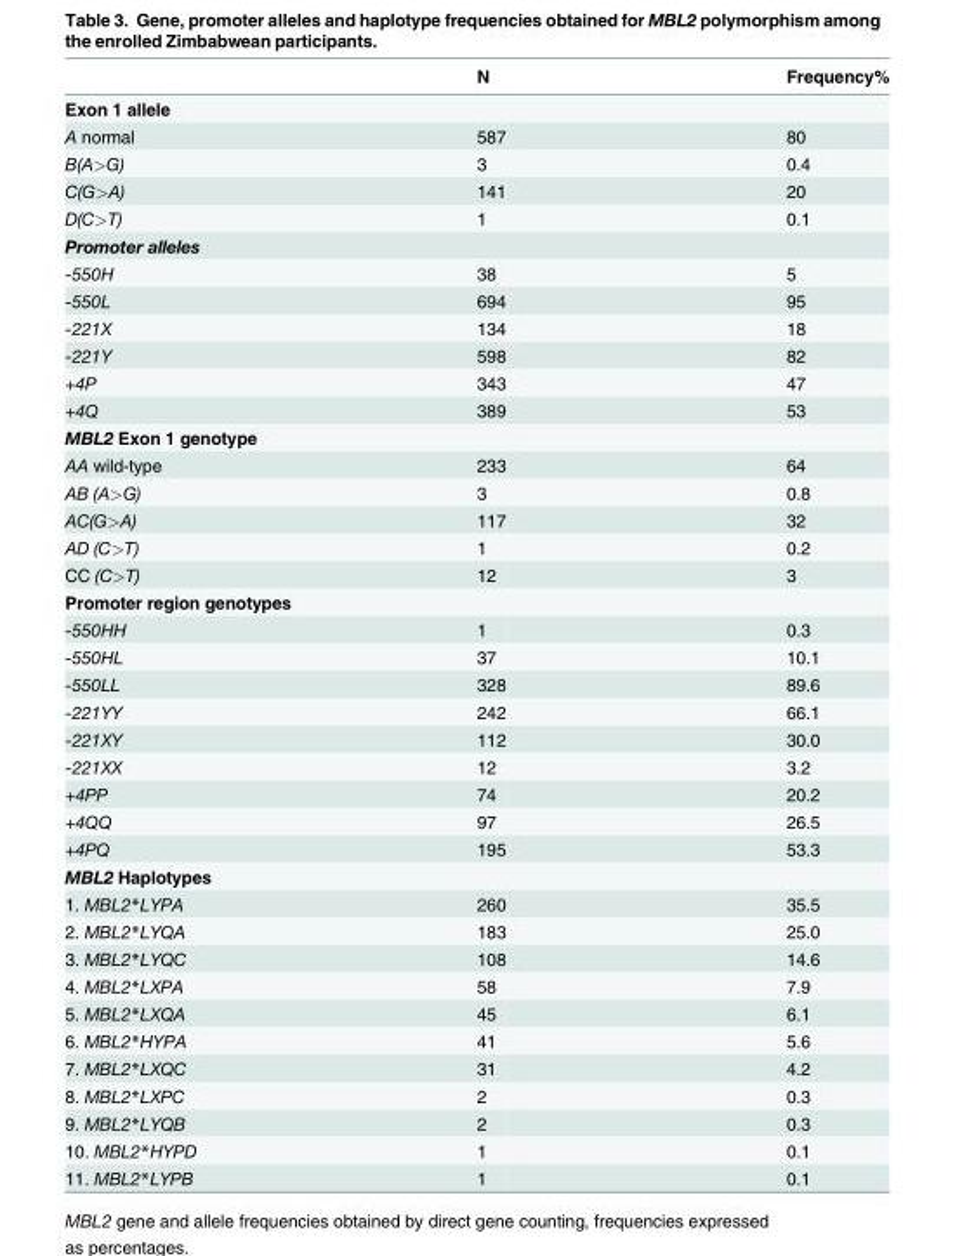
<table><thead><tr><td></td><td>N</td><td>Frequency%</td></tr></thead><tbody><tr><td colspan="3">Exon 1 allele</td></tr><tr><td>A normal</td><td>587</td><td>80</td></tr><tr><td>B(A&gt;G)</td><td>3</td><td>0.4</td></tr><tr><td>C(G&gt;A)</td><td>141</td><td>20</td></tr><tr><td>D(C&gt;T)</td><td>1</td><td>0.1</td></tr><tr><td colspan="3">Promoter alleles</td></tr><tr><td>-550H</td><td>38</td><td>5</td></tr><tr><td>-550L</td><td>694</td><td>95</td></tr><tr><td>-221X</td><td>134</td><td>18</td></tr><tr><td>-221Y</td><td>598</td><td>82</td></tr><tr><td>+4P</td><td>343</td><td>47</td></tr><tr><td>+4Q</td><td>389</td><td>53</td></tr><tr><td colspan="3">MBL2 Exon 1 genotype</td></tr><tr><td>AA wild-type</td><td>233</td><td>64</td></tr><tr><td>AB (A&gt;G)</td><td>3</td><td>0.8</td></tr><tr><td>AC(G&gt;A)</td><td>117</td><td>32</td></tr><tr><td>AD (C&gt;T)</td><td>1</td><td>0.2</td></tr><tr><td>CC (C&gt;T)</td><td>12</td><td>3</td></tr><tr><td colspan="3">Promoter region genotypes</td></tr><tr><td>-550HH</td><td>1</td><td>0.3</td></tr><tr><td>-550HL</td><td>37</td><td>10.1</td></tr><tr><td>-550LL</td><td>328</td><td>89.6</td></tr><tr><td>-221YY</td><td>242</td><td>66.1</td></tr><tr><td>-221XY</td><td>112</td><td>30.0</td></tr><tr><td>-221XX</td><td>12</td><td>3.2</td></tr><tr><td>+4PP</td><td>74</td><td>20.2</td></tr><tr><td>+4QQ</td><td>97</td><td>26.5</td></tr><tr><td>+4PQ</td><td>195</td><td>53.3</td></tr><tr><td colspan="3">MBL2 Haplotypes</td></tr><tr><td>1. MBL2*LYPA</td><td>260</td><td>35.5</td></tr><tr><td>2. MBL2*LYQA</td><td>183</td><td>25.0</td></tr><tr><td>3. MBL2*LYQC</td><td>108</td><td>14.6</td></tr><tr><td>4. MBL2*LXPA</td><td>58</td><td>7.9</td></tr><tr><td>5. MBL2*LXQA</td><td>45</td><td>6.1</td></tr><tr><td>6. MBL2*HYPA</td><td>41</td><td>5.6</td></tr><tr><td>7. MBL2*LXQC</td><td>31</td><td>4.2</td></tr><tr><td>8. MBL2*LXPC</td><td>2</td><td>0.3</td></tr><tr><td>9. MBL2*LYQB</td><td>2</td><td>0.3</td></tr><tr><td>10. MBL2*HYPD</td><td>1</td><td>0.1</td></tr><tr><td>11. MBL2*LYPB</td><td>1</td><td>0.1</td></tr></tbody></table>